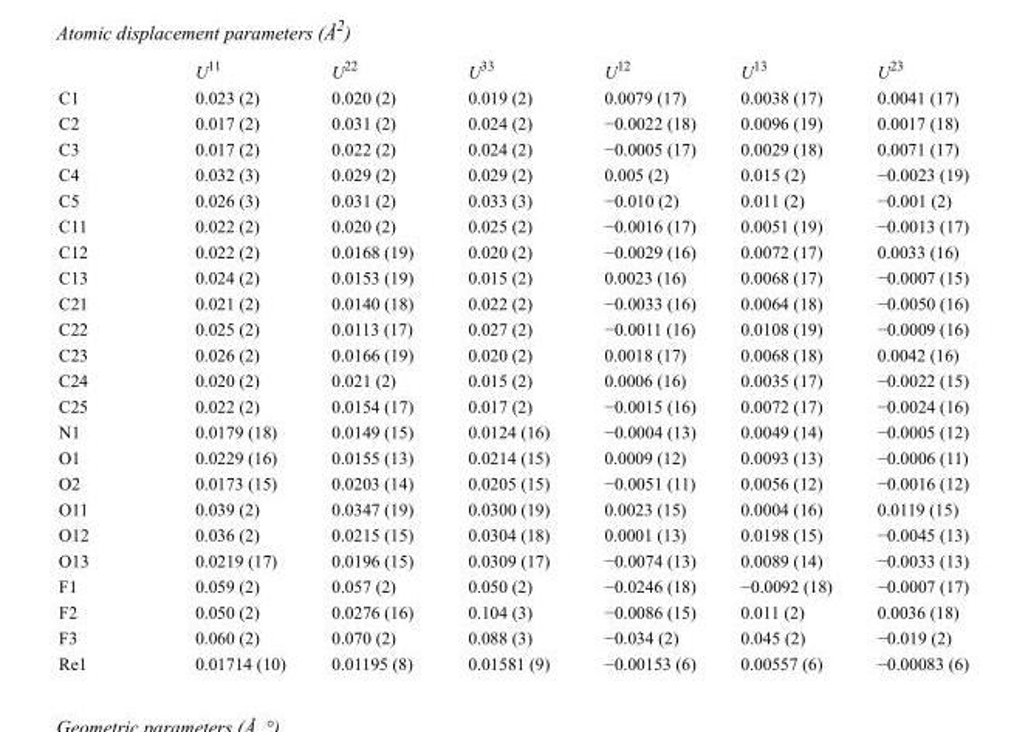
<table><thead><tr><td></td><td>U<sup>11</sup></td><td>U<sup>22</sup></td><td>U<sup>33</sup></td><td>U<sup>12</sup></td><td>U<sup>13</sup></td><td>U<sup>23</sup></td></tr></thead><tbody><tr><td>C1</td><td>0.023 (2)</td><td>0.020 (2)</td><td>0.019 (2)</td><td>0.0079 (17)</td><td>0.0038 (17)</td><td>0.0041 (17)</td></tr><tr><td>C2</td><td>0.017 (2)</td><td>0.031 (2)</td><td>0.024 (2)</td><td>−0.0022 (18)</td><td>0.0096 (19)</td><td>0.0017 (18)</td></tr><tr><td>C3</td><td>0.017 (2)</td><td>0.022 (2)</td><td>0.024 (2)</td><td>−0.0005 (17)</td><td>0.0029 (18)</td><td>0.0071 (17)</td></tr><tr><td>C4</td><td>0.032 (3)</td><td>0.029 (2)</td><td>0.029 (2)</td><td>0.005 (2)</td><td>0.015 (2)</td><td>−0.0023 (19)</td></tr><tr><td>C5</td><td>0.026 (3)</td><td>0.031 (2)</td><td>0.033 (3)</td><td>−0.010 (2)</td><td>0.011 (2)</td><td>−0.001 (2)</td></tr><tr><td>C11</td><td>0.022 (2)</td><td>0.020 (2)</td><td>0.025 (2)</td><td>−0.0016 (17)</td><td>0.0051 (19)</td><td>−0.0013 (17)</td></tr><tr><td>C12</td><td>0.022 (2)</td><td>0.0168 (19)</td><td>0.020 (2)</td><td>−0.0029 (16)</td><td>0.0072 (17)</td><td>0.0033 (16)</td></tr><tr><td>C13</td><td>0.024 (2)</td><td>0.0153 (19)</td><td>0.015 (2)</td><td>0.0023 (16)</td><td>0.0068 (17)</td><td>−0.0007 (15)</td></tr><tr><td>C21</td><td>0.021 (2)</td><td>0.0140 (18)</td><td>0.022 (2)</td><td>−0.0033 (16)</td><td>0.0064 (18)</td><td>−0.0050 (16)</td></tr><tr><td>C22</td><td>0.025 (2)</td><td>0.0113 (17)</td><td>0.027 (2)</td><td>−0.0011 (16)</td><td>0.0108 (19)</td><td>−0.0009 (16)</td></tr><tr><td>C23</td><td>0.026 (2)</td><td>0.0166 (19)</td><td>0.020 (2)</td><td>0.0018 (17)</td><td>0.0068 (18)</td><td>0.0042 (16)</td></tr><tr><td>C24</td><td>0.020 (2)</td><td>0.021 (2)</td><td>0.015 (2)</td><td>0.0006 (16)</td><td>0.0035 (17)</td><td>−0.0022 (15)</td></tr><tr><td>C25</td><td>0.022 (2)</td><td>0.0154 (17)</td><td>0.017 (2)</td><td>−0.0015 (16)</td><td>0.0072 (17)</td><td>−0.0024 (16)</td></tr><tr><td>N1</td><td>0.0179 (18)</td><td>0.0149 (15)</td><td>0.0124 (16)</td><td>−0.0004 (13)</td><td>0.0049 (14)</td><td>−0.0005 (12)</td></tr><tr><td>O1</td><td>0.0229 (16)</td><td>0.0155 (13)</td><td>0.0214 (15)</td><td>0.0009 (12)</td><td>0.0093 (13)</td><td>−0.0006 (11)</td></tr><tr><td>O2</td><td>0.0173 (15)</td><td>0.0203 (14)</td><td>0.0205 (15)</td><td>−0.0051 (11)</td><td>0.0056 (12)</td><td>−0.0016 (12)</td></tr><tr><td>O11</td><td>0.039 (2)</td><td>0.0347 (19)</td><td>0.0300 (19)</td><td>0.0023 (15)</td><td>0.0004 (16)</td><td>0.0119 (15)</td></tr><tr><td>O12</td><td>0.036 (2)</td><td>0.0215 (15)</td><td>0.0304 (18)</td><td>0.0001 (13)</td><td>0.0198 (15)</td><td>−0.0045 (13)</td></tr><tr><td>O13</td><td>0.0219 (17)</td><td>0.0196 (15)</td><td>0.0309 (17)</td><td>−0.0074 (13)</td><td>0.0089 (14)</td><td>−0.0033 (13)</td></tr><tr><td>F1</td><td>0.059 (2)</td><td>0.057 (2)</td><td>0.050 (2)</td><td>−0.0246 (18)</td><td>−0.0092 (18)</td><td>−0.0007 (17)</td></tr><tr><td>F2</td><td>0.050 (2)</td><td>0.0276 (16)</td><td>0.104 (3)</td><td>−0.0086 (15)</td><td>0.011 (2)</td><td>0.0036 (18)</td></tr><tr><td>F3</td><td>0.060 (2)</td><td>0.070 (2)</td><td>0.088 (3)</td><td>−0.034 (2)</td><td>0.045 (2)</td><td>−0.019 (2)</td></tr><tr><td>Re1</td><td>0.01714 (10)</td><td>0.01195 (8)</td><td>0.01581 (9)</td><td>−0.00153 (6)</td><td>0.00557 (6)</td><td>−0.00083 (6)</td></tr></tbody></table>